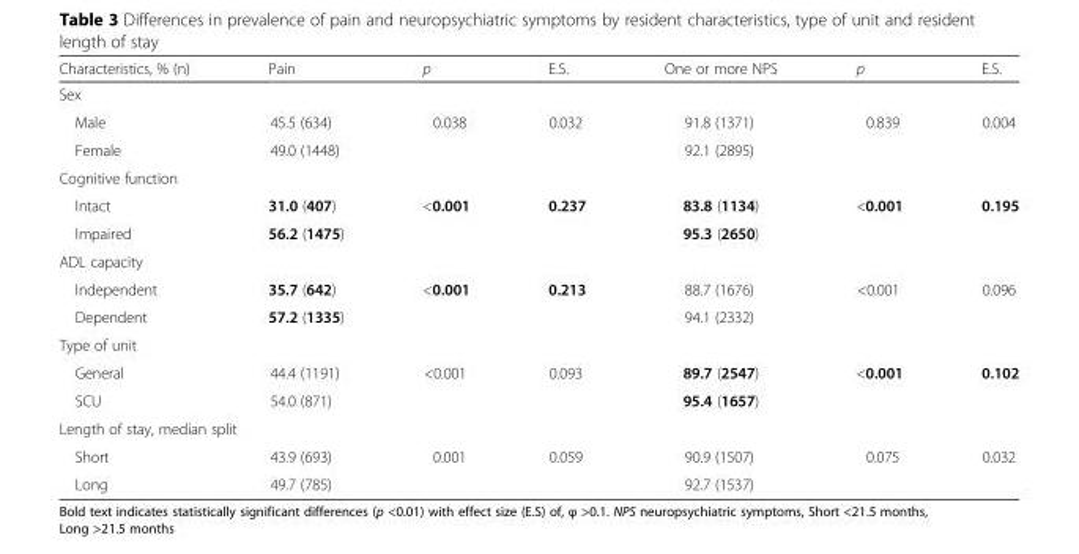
<table><thead><tr><td>Characteristics, % (n)</td><td>Pain</td><td>p</td><td>E.S.</td><td>One or more NPS</td><td>p</td><td>E.S.</td></tr></thead><tbody><tr><td colspan="7">Sex</td></tr><tr><td>Male</td><td>45.5 (634)</td><td rowspan="2">0.038</td><td rowspan="2">0.032</td><td>91.8 (1371)</td><td rowspan="2">0.839</td><td rowspan="2">0.004</td></tr><tr><td>Female</td><td>49.0 (1448)</td><td>92.1 (2895)</td></tr><tr><td colspan="7">Cognitive function</td></tr><tr><td>Intact</td><td>31.0 (407)</td><td rowspan="2">&lt;0.001</td><td rowspan="2">0.237</td><td>83.8 (1134)</td><td rowspan="2">&lt;0.001</td><td rowspan="2">0.195</td></tr><tr><td>Impaired</td><td>56.2 (1475)</td><td>95.3 (2650)</td></tr><tr><td colspan="7">ADL capacity</td></tr><tr><td>Independent</td><td>35.7 (642)</td><td rowspan="2">&lt;0.001</td><td rowspan="2">0.213</td><td>88.7 (1676)</td><td rowspan="2">&lt;0.001</td><td rowspan="2">0.096</td></tr><tr><td>Dependent</td><td>57.2 (1335)</td><td>94.1 (2332)</td></tr><tr><td colspan="7">Type of unit</td></tr><tr><td>General</td><td>44.4 (1191)</td><td rowspan="2">&lt;0.001</td><td rowspan="2">0.093</td><td>89.7 (2547)</td><td rowspan="2">&lt;0.001</td><td rowspan="2">0.102</td></tr><tr><td>SCU</td><td>54.0 (871)</td><td>95.4 (1657)</td></tr><tr><td colspan="7">Length of stay, median split</td></tr><tr><td>Short</td><td>43.9 (693)</td><td rowspan="2">0.001</td><td rowspan="2">0.059</td><td>90.9 (1507)</td><td rowspan="2">0.075</td><td rowspan="2">0.032</td></tr><tr><td>Long</td><td>49.7 (785)</td><td>92.7 (1537)</td></tr></tbody></table>